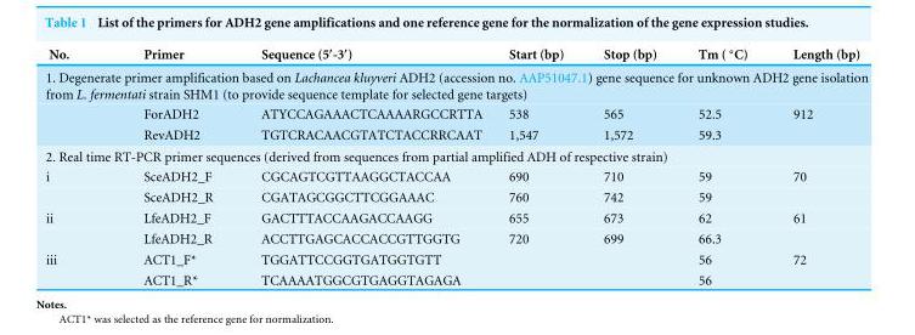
<table><thead><tr><td>No.</td><td>Primer</td><td>Sequence (5′-3′)</td><td>Start (bp)</td><td>Stop (bp)</td><td>Tm ( ◦C)</td><td>Length (bp)</td></tr></thead><tbody><tr><td colspan="7">1. Degenerate primer amplification based on Lachancea kluyveri ADH2 (accession no. AAP51047.1) gene sequence for unknown ADH2 gene isolation from L. fermentati strain SHM1 (to provide sequence template for selected gene targets)</td></tr><tr><td></td><td>ForADH2</td><td>ATYCCAGAAACTCAAAARGCCRTTA</td><td>538</td><td>565</td><td>52.5</td><td>912</td></tr><tr><td></td><td>RevADH2</td><td>TGTCRACAACGTATCTACCRRCAAT</td><td>1,547</td><td>1,572</td><td>59.3</td><td></td></tr><tr><td colspan="7">2. Real time RT-PCR primer sequences (derived from sequences from partial amplified ADH of respective strain)</td></tr><tr><td rowspan="2">i</td><td>SceADH2_F</td><td>CGCAGTCGTTAAGGCTACCAA</td><td>690</td><td>710</td><td>59</td><td>70</td></tr><tr><td>SceADH2_R</td><td>CGATAGCGGCTTCGGAAAC</td><td>760</td><td>742</td><td>59</td><td></td></tr><tr><td rowspan="2">ii</td><td>LfeADH2_F</td><td>GACTTTACCAAGACCAAGG</td><td>655</td><td>673</td><td>62</td><td>61</td></tr><tr><td>LfeADH2_R</td><td>ACCTTGAGCACCACCGTTGGTG</td><td>720</td><td>699</td><td>66.3</td><td></td></tr><tr><td rowspan="2">iii</td><td>ACT1_F*</td><td>TGGATTCCGGTGATGGTGTT</td><td></td><td></td><td>56</td><td>72</td></tr><tr><td>ACT1_R*</td><td>TCAAAATGGCGTGAGGTAGAGA</td><td></td><td></td><td>56</td><td></td></tr></tbody></table>